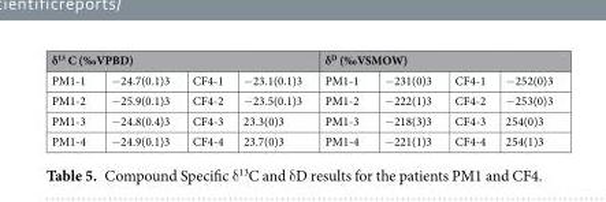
<table><thead><tr><td colspan="4">δ<sup>13</sup> C (‰VPBD)</td><td colspan="4">δ<sup>D</sup> (‰VSMOW)</td></tr><tr><td>PM1-1</td><td>−24.7(0.1)3</td><td>CF4-1</td><td>−23.1(0.1)3</td><td>PM1-1</td><td>−231(0)3</td><td>CF4-1</td><td>−252(0)3</td></tr></thead><tbody><tr><td>PM1-2</td><td>−25.9(0.1)3</td><td>CF4-2</td><td>−23.5(0.1)3</td><td>PM1-2</td><td>−222(1)3</td><td>CF4-2</td><td>−253(0)3</td></tr><tr><td>PM1-3</td><td>−24.8(0.4)3</td><td>CF4-3</td><td>23.3(0)3</td><td>PM1-3</td><td>−218(3)3</td><td>CF4-3</td><td>254(0)3</td></tr><tr><td>PM1-4</td><td>−24.9(0.1)3</td><td>CF4-4</td><td>23.7(0)3</td><td>PM1-4</td><td>−221(1)3</td><td>CF4-4</td><td>254(1)3</td></tr></tbody></table>